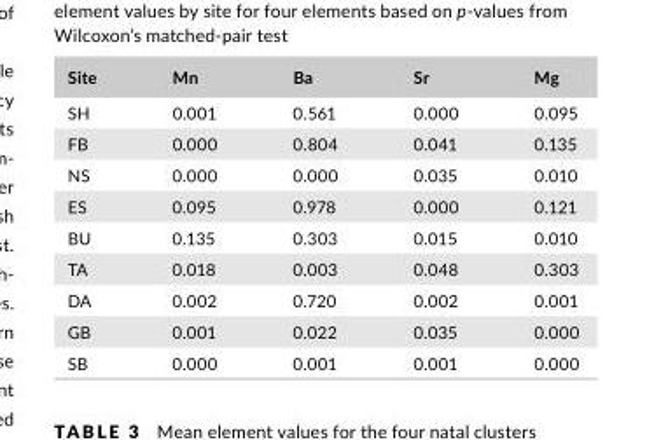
<table><thead><tr><td>Site</td><td>Mn</td><td>Ba</td><td>Sr</td><td>Mg</td></tr></thead><tbody><tr><td>SH</td><td>0.001</td><td>0.561</td><td>0.000</td><td>0.095</td></tr><tr><td>FB</td><td>0.000</td><td>0.804</td><td>0.041</td><td>0.135</td></tr><tr><td>NS</td><td>0.000</td><td>0.000</td><td>0.035</td><td>0.010</td></tr><tr><td>ES</td><td>0.095</td><td>0.978</td><td>0.000</td><td>0.121</td></tr><tr><td>BU</td><td>0.135</td><td>0.303</td><td>0.015</td><td>0.010</td></tr><tr><td>TA</td><td>0.018</td><td>0.003</td><td>0.048</td><td>0.303</td></tr><tr><td>DA</td><td>0.002</td><td>0.720</td><td>0.002</td><td>0.001</td></tr><tr><td>GB</td><td>0.001</td><td>0.022</td><td>0.035</td><td>0.000</td></tr><tr><td>SB</td><td>0.000</td><td>0.001</td><td>0.001</td><td>0.000</td></tr></tbody></table>